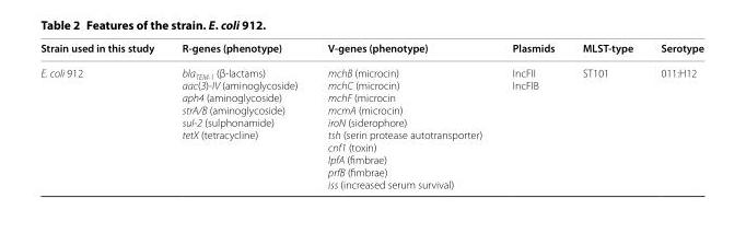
<table><thead><tr><td>Strain used in this study</td><td>R-genes (phenotype)</td><td>V-genes (phenotype)</td><td>Plasmids</td><td>MLST-type</td><td>Serotype</td></tr></thead><tbody><tr><td>E. coli 912</td><td>bla<sub>TEM‑1</sub> (β‑lactams) aac(3)‑IV (aminoglycoside) aph4 (aminoglycoside) strA/B (aminoglycoside) sul‑2 (sulphonamide) tetX (tetracycline)</td><td>mchB (microcin) mchC (microcin) mchF (microcin mcmA (microcin) iroN (siderophore) tsh (serin protease autotransporter) cnf1 (toxin) lpfA (fimbrae) prfB (fimbrae) iss (increased serum survival)</td><td>IncFII IncFIB</td><td>ST101</td><td>011:H12</td></tr></tbody></table>